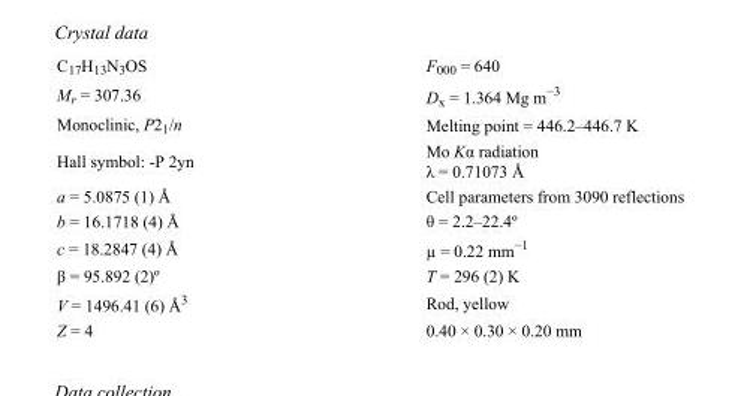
<table><tbody><tr><td>C<sub>17</sub>H<sub>13</sub>N<sub>3</sub>OS</td><td>F000 = 640</td></tr><tr><td>M<sub>r</sub> = 307.36</td><td>D<sub>x</sub> = 1.364 Mg m<sup>−3</sup></td></tr><tr><td>Monoclinic, P2<sub>1</sub>/n</td><td>Melting point = 446.2–446.7 K</td></tr><tr><td>Hall symbol: -P 2yn</td><td>Mo Kα radiation λ = 0.71073 Å</td></tr><tr><td>a = 5.0875 (1) Å</td><td>Cell parameters from 3090 reflections</td></tr><tr><td>b = 16.1718 (4) Å</td><td>θ = 2.2–22.4º</td></tr><tr><td>c = 18.2847 (4) Å</td><td>µ = 0.22 mm<sup>−1</sup></td></tr><tr><td>β = 95.892 (2)º</td><td>T = 296 (2) K</td></tr><tr><td>V = 1496.41 (6) Å<sup>3</sup></td><td>Rod, yellow</td></tr><tr><td>Z = 4</td><td>0.40 × 0.30 × 0.20 mm</td></tr></tbody></table>